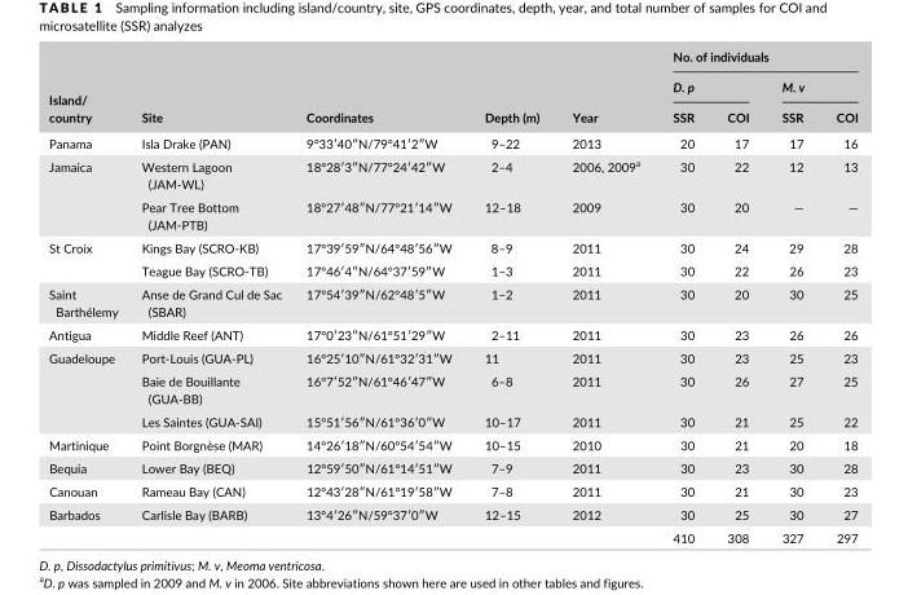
<table><thead><tr><td rowspan="3">Island/ country</td><td rowspan="3">Site</td><td rowspan="3">Coordinates</td><td rowspan="3">Depth (m)</td><td rowspan="3">Year</td><td colspan="4">No. of individuals</td></tr><tr><td colspan="2">D. p</td><td colspan="2">M. v</td></tr><tr><td>SSR</td><td>COI</td><td>SSR</td><td>COI</td></tr></thead><tbody><tr><td>Panama</td><td>Isla Drake (PAN)</td><td>9°33′40″N/79°41′2″W</td><td>9–22</td><td>2013</td><td>20</td><td>17</td><td>17</td><td>16</td></tr><tr><td rowspan="2">Jamaica</td><td>Western Lagoon (JAM- WL)</td><td>18°28′3″N/77°24′42″W</td><td>2–4</td><td>2006, 2009<sup>a</sup></td><td>30</td><td>22</td><td>12</td><td>13</td></tr><tr><td>Pear Tree Bottom (JAM- PTB)</td><td>18°27′48″N/77°21′14″W</td><td>12–18</td><td>2009</td><td>30</td><td>20</td><td>—</td><td>—</td></tr><tr><td rowspan="2">St Croix</td><td>Kings Bay (SCRO- KB)</td><td>17°39′59″N/64°48′56″W</td><td>8–9</td><td>2011</td><td>30</td><td>24</td><td>29</td><td>28</td></tr><tr><td>Teague Bay (SCRO- TB)</td><td>17°46′4″N/64°37′59″W</td><td>1–3</td><td>2011</td><td>30</td><td>22</td><td>26</td><td>23</td></tr><tr><td>Saint Barthélemy</td><td>Anse de Grand Cul de Sac (SBAR)</td><td>17°54′39″N/62°48′5″W</td><td>1–2</td><td>2011</td><td>30</td><td>20</td><td>30</td><td>25</td></tr><tr><td>Antigua</td><td>Middle Reef (ANT)</td><td>17°0′23″N/61°51′29″W</td><td>2–11</td><td>2011</td><td>30</td><td>23</td><td>26</td><td>26</td></tr><tr><td rowspan="3">Guadeloupe</td><td>Port- Louis (GUA- PL)</td><td>16°25′10″N/61°32′31″W</td><td>11</td><td>2011</td><td>30</td><td>23</td><td>25</td><td>23</td></tr><tr><td>Baie de Bouillante (GUA- BB)</td><td>16°7′52″N/61°46′47″W</td><td>6–8</td><td>2011</td><td>30</td><td>26</td><td>27</td><td>25</td></tr><tr><td>Les Saintes (GUA- SAI)</td><td>15°51′56″N/61°36′0″W</td><td>10–17</td><td>2011</td><td>30</td><td>21</td><td>25</td><td>22</td></tr><tr><td>Martinique</td><td>Point Borgnèse (MAR)</td><td>14°26′18″N/60°54′54″W</td><td>10–15</td><td>2010</td><td>30</td><td>21</td><td>20</td><td>18</td></tr><tr><td>Bequia</td><td>Lower Bay (BEQ)</td><td>12°59′50″N/61°14′51″W</td><td>7–9</td><td>2011</td><td>30</td><td>23</td><td>30</td><td>28</td></tr><tr><td>Canouan</td><td>Rameau Bay (CAN)</td><td>12°43′28″N/61°19′58″W</td><td>7–8</td><td>2011</td><td>30</td><td>21</td><td>30</td><td>23</td></tr><tr><td rowspan="2">Barbados</td><td>Carlisle Bay (BARB)</td><td>13°4′26″N/59°37′0″W</td><td>12–15</td><td>2012</td><td>30</td><td>25</td><td>30</td><td>27</td></tr><tr><td></td><td></td><td></td><td></td><td>410</td><td>308</td><td>327</td><td>297</td></tr></tbody></table>